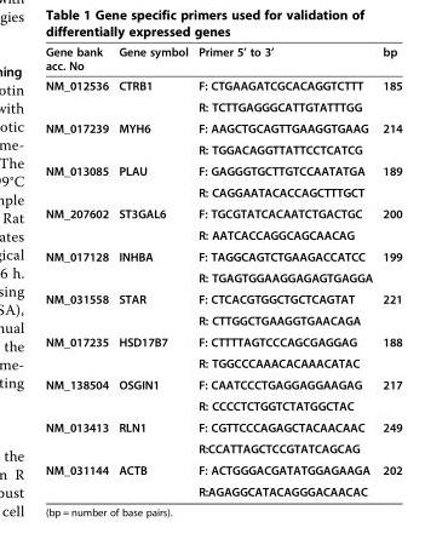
<table><thead><tr><td>Gene bank acc. No</td><td>Gene symbol</td><td>Primer 5’ to 3’</td><td>bp</td></tr></thead><tbody><tr><td rowspan="2">NM_012536</td><td rowspan="2">CTRB1</td><td>F: CTGAAGATCGCACAGGTCTTT</td><td rowspan="2">185</td></tr><tr><td>R: TCTTGAGGGCATTGTATTTGG</td></tr><tr><td rowspan="2">NM_017239</td><td rowspan="2">MYH6</td><td>F: AAGCTGCAGTTGAAGGTGAAG</td><td rowspan="2">214</td></tr><tr><td>R: TGGACAGGTTATTCCTCATCG</td></tr><tr><td rowspan="2">NM_013085</td><td rowspan="2">PLAU</td><td>F: GAGGGTGCTTGTCCAATATGA</td><td rowspan="2">189</td></tr><tr><td>R: CAGGAATACACCAGCTTTGCT</td></tr><tr><td rowspan="2">NM_207602</td><td rowspan="2">ST3GAL6</td><td>F: TGCGTATCACAATCTGACTGC</td><td rowspan="2">200</td></tr><tr><td>R: AATCACCAGGCAGCAACAG</td></tr><tr><td rowspan="2">NM_017128</td><td rowspan="2">INHBA</td><td>F: TAGGCAGTCTGAAGACCATCC</td><td rowspan="2">199</td></tr><tr><td>R: TGAGTGGAAGGAGAGTGAGGA</td></tr><tr><td rowspan="2">NM_031558</td><td rowspan="2">STAR</td><td>F: CTCACGTGGCTGCTCAGTAT</td><td rowspan="2">221</td></tr><tr><td>R: CTTGGCTGAAGGTGAACAGA</td></tr><tr><td rowspan="2">NM_017235</td><td rowspan="2">HSD17B7</td><td>F: CTTTTAGTCCCAGCGAGGAG</td><td rowspan="2">188</td></tr><tr><td>R: TGGCCCAAACACAAACATAC</td></tr><tr><td rowspan="2">NM_138504</td><td rowspan="2">OSGIN1</td><td>F: CAATCCCTGAGGAGGAAGAG</td><td rowspan="2">217</td></tr><tr><td>R: CCCCTCTGGTCTATGGCTAC</td></tr><tr><td rowspan="2">NM_013413</td><td rowspan="2">RLN1</td><td>F: CGTTCCCAGAGCTACAACAAC</td><td rowspan="2">249</td></tr><tr><td>R:CCATTAGCTCCGTATCAGCAG</td></tr><tr><td rowspan="2">NM_031144</td><td rowspan="2">ACTB</td><td>F: ACTGGGACGATATGGAGAAGA</td><td rowspan="2">202</td></tr><tr><td>R:AGAGGCATACAGGGACAACAC</td></tr></tbody></table>